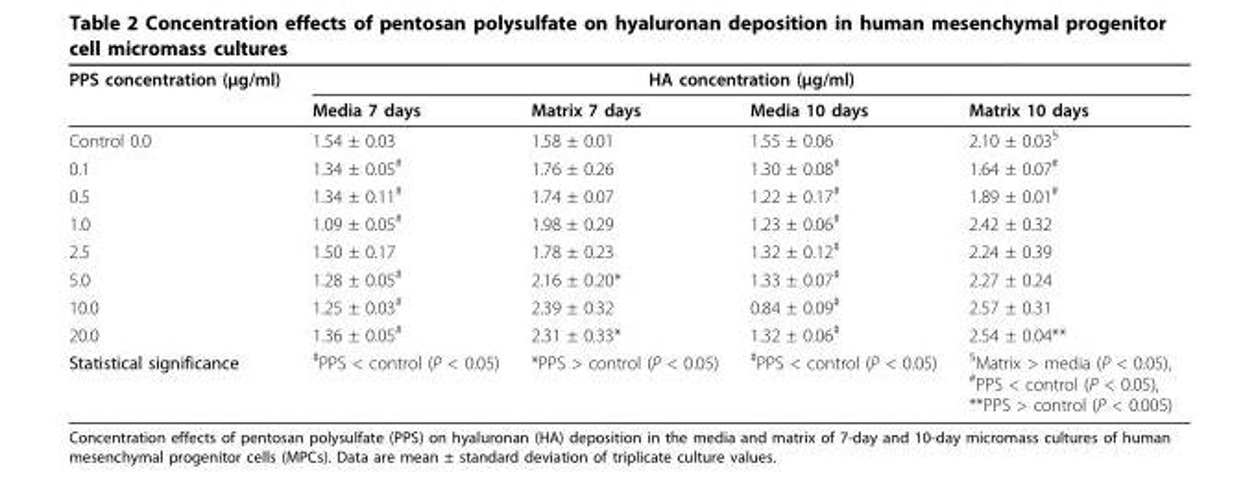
<table><thead><tr><td rowspan="2">PPS concentration (μg/ml)</td><td colspan="4">HA concentration (μg/ml)</td></tr><tr><td>Media 7 days</td><td>Matrix 7 days</td><td>Media 10 days</td><td>Matrix 10 days</td></tr></thead><tbody><tr><td>Control 0.0</td><td>1.54 ± 0.03</td><td>1.58 ± 0.01</td><td>1.55 ± 0.06</td><td>2.10 ± 0.03<sup>§</sup></td></tr><tr><td>0.1</td><td>1.34 ± 0.05<sup>#</sup></td><td>1.76 ± 0.26</td><td>1.30 ± 0.08<sup>#</sup></td><td>1.64 ± 0.07<sup>#</sup></td></tr><tr><td>0.5</td><td>1.34 ± 0.11<sup>#</sup></td><td>1.74 ± 0.07</td><td>1.22 ± 0.17<sup>#</sup></td><td>1.89 ± 0.01<sup>#</sup></td></tr><tr><td>1.0</td><td>1.09 ± 0.05<sup>#</sup></td><td>1.98 ± 0.29</td><td>1.23 ± 0.06<sup>#</sup></td><td>2.42 ± 0.32</td></tr><tr><td>2.5</td><td>1.50 ± 0.17</td><td>1.78 ± 0.23</td><td>1.32 ± 0.12<sup>#</sup></td><td>2.24 ± 0.39</td></tr><tr><td>5.0</td><td>1.28 ± 0.05<sup>#</sup></td><td>2.16 ± 0.20*</td><td>1.33 ± 0.07<sup>#</sup></td><td>2.27 ± 0.24</td></tr><tr><td>10.0</td><td>1.25 ± 0.03<sup>#</sup></td><td>2.39 ± 0.32</td><td>0.84 ± 0.09<sup>#</sup></td><td>2.57 ± 0.31</td></tr><tr><td>20.0</td><td>1.36 ± 0.05<sup>#</sup></td><td>2.31 ± 0.33*</td><td>1.32 ± 0.06<sup>#</sup></td><td>2.54 ± 0.04**</td></tr><tr><td>Statistical significance</td><td><sup>#</sup>PPS &lt; control (P &lt; 0.05)</td><td>*PPS &gt; control (P &lt; 0.05)</td><td><sup>#</sup>PPS &lt; control (P &lt; 0.05)</td><td><sup>§</sup>Matrix &gt; media (P &lt; 0.05), <sup>#</sup>PPS &lt; control (P &lt; 0.05), **PPS &gt; control (P &lt; 0.005)</td></tr></tbody></table>